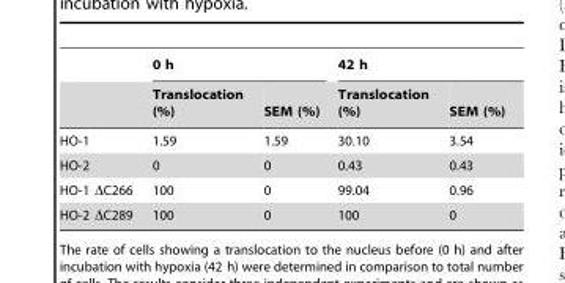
<table><thead><tr><td rowspan="2"></td><td colspan="2">0 h</td><td colspan="2">42 h</td></tr><tr><td>Translocation (%)</td><td>SEM (%)</td><td>Translocation (%)</td><td>SEM (%)</td></tr></thead><tbody><tr><td>HO-1</td><td>1.59</td><td>1.59</td><td>30.10</td><td>3.54</td></tr><tr><td>HO-2</td><td>0</td><td>0</td><td>0.43</td><td>0.43</td></tr><tr><td>HO-1 ΔC266</td><td>100</td><td>0</td><td>99.04</td><td>0.96</td></tr><tr><td>HO-2 ΔC289</td><td>100</td><td>0</td><td>100</td><td>0</td></tr></tbody></table>